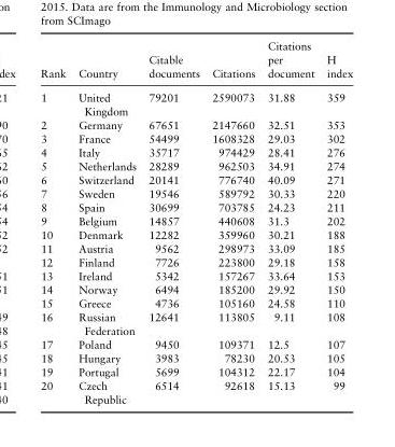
<table><thead><tr><td>Rank</td><td>Country</td><td>Citable documents</td><td>Citations</td><td>Citations per document</td><td>H index</td></tr></thead><tbody><tr><td>1</td><td>United Kingdom</td><td>79201</td><td>2590073</td><td>31.88</td><td>359</td></tr><tr><td>2</td><td>Germany</td><td>67651</td><td>2147660</td><td>32.51</td><td>353</td></tr><tr><td>3</td><td>France</td><td>54499</td><td>1608328</td><td>29.03</td><td>302</td></tr><tr><td>4</td><td>Italy</td><td>35717</td><td>974429</td><td>28.41</td><td>276</td></tr><tr><td>5</td><td>Netherlands</td><td>28289</td><td>962503</td><td>34.91</td><td>274</td></tr><tr><td>6</td><td>Switzerland</td><td>20141</td><td>776740</td><td>40.09</td><td>271</td></tr><tr><td>7</td><td>Sweden</td><td>19546</td><td>589792</td><td>30.33</td><td>220</td></tr><tr><td>8</td><td>Spain</td><td>30699</td><td>703785</td><td>24.23</td><td>211</td></tr><tr><td>9</td><td>Belgium</td><td>14857</td><td>440608</td><td>31.3</td><td>202</td></tr><tr><td>10</td><td>Denmark</td><td>12282</td><td>359960</td><td>30.21</td><td>188</td></tr><tr><td>11</td><td>Austria</td><td>9562</td><td>298973</td><td>33.09</td><td>185</td></tr><tr><td>12</td><td>Finland</td><td>7726</td><td>223800</td><td>29.18</td><td>158</td></tr><tr><td>13</td><td>Ireland</td><td>5342</td><td>157267</td><td>33.64</td><td>153</td></tr><tr><td>14</td><td>Norway</td><td>6494</td><td>185200</td><td>29.92</td><td>150</td></tr><tr><td>15</td><td>Greece</td><td>4736</td><td>105160</td><td>24.58</td><td>110</td></tr><tr><td>16</td><td>Russian Federation</td><td>12641</td><td>113805</td><td>9.11</td><td>108</td></tr><tr><td>17</td><td>Poland</td><td>9450</td><td>109371</td><td>12.5</td><td>107</td></tr><tr><td>18</td><td>Hungary</td><td>3983</td><td>78230</td><td>20.53</td><td>105</td></tr><tr><td>19</td><td>Portugal</td><td>5699</td><td>104312</td><td>22.17</td><td>104</td></tr><tr><td>20</td><td>Czech Republic</td><td>6514</td><td>92618</td><td>15.13</td><td>99</td></tr></tbody></table>